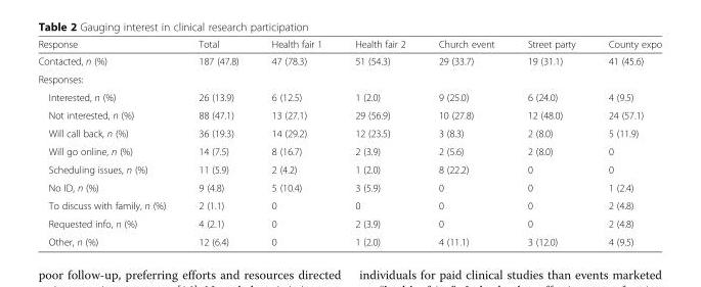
<table><thead><tr><td>Response</td><td>Total</td><td>Health fair 1</td><td>Health fair 2</td><td>Church event</td><td>Street party</td><td>County expo</td></tr></thead><tbody><tr><td>Contacted, n (%)</td><td>187 (47.8)</td><td>47 (78.3)</td><td>51 (54.3)</td><td>29 (33.7)</td><td>19 (31.1)</td><td>41 (45.6)</td></tr><tr><td colspan="7">Responses:</td></tr><tr><td>Interested, n (%)</td><td>26 (13.9)</td><td>6 (12.5)</td><td>1 (2.0)</td><td>9 (25.0)</td><td>6 (24.0)</td><td>4 (9.5)</td></tr><tr><td>Not interested, n (%)</td><td>88 (47.1)</td><td>13 (27.1)</td><td>29 (56.9)</td><td>10 (27.8)</td><td>12 (48.0)</td><td>24 (57.1)</td></tr><tr><td>Will call back, n (%)</td><td>36 (19.3)</td><td>14 (29.2)</td><td>12 (23.5)</td><td>3 (8.3)</td><td>2 (8.0)</td><td>5 (11.9)</td></tr><tr><td>Will go online, n (%)</td><td>14 (7.5)</td><td>8 (16.7)</td><td>2 (3.9)</td><td>2 (5.6)</td><td>2 (8.0)</td><td>0</td></tr><tr><td>Scheduling issues, n (%)</td><td>11 (5.9)</td><td>2 (4.2)</td><td>1 (2.0)</td><td>8 (22.2)</td><td>0</td><td>0</td></tr><tr><td>No ID, n (%)</td><td>9 (4.8)</td><td>5 (10.4)</td><td>3 (5.9)</td><td>0</td><td>0</td><td>1 (2.4)</td></tr><tr><td>To discuss with family, n (%)</td><td>2 (1.1)</td><td>0</td><td>0</td><td>0</td><td>0</td><td>2 (4.8)</td></tr><tr><td>Requested info, n (%)</td><td>4 (2.1)</td><td>0</td><td>2 (3.9)</td><td>0</td><td>0</td><td>2 (4.8)</td></tr><tr><td>Other, n (%)</td><td>12 (6.4)</td><td>0</td><td>1 (2.0)</td><td>4 (11.1)</td><td>3 (12.0)</td><td>4 (9.5)</td></tr></tbody></table>